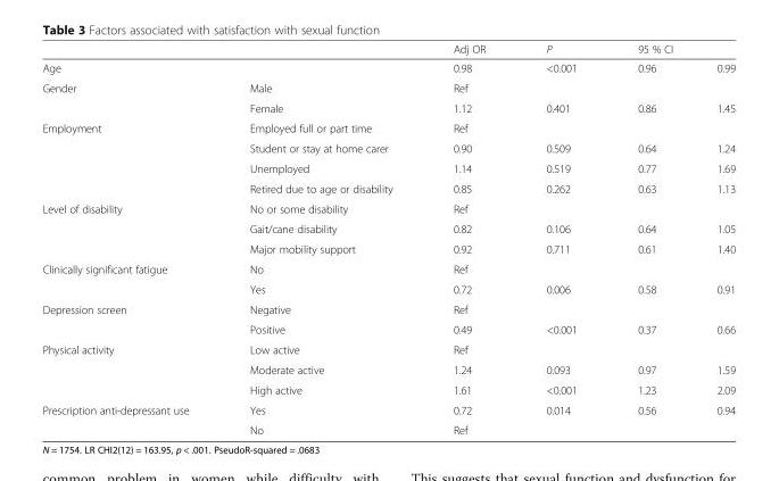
<table><thead><tr><td rowspan="2">Age</td><td rowspan="2"></td><td rowspan="2">Adj OR 0.98</td><td rowspan="2">P &lt;0.001</td><td colspan="2">95 % CI</td></tr><tr><td>0.96</td><td>0.99</td></tr></thead><tbody><tr><td rowspan="2">Gender</td><td>Male</td><td>Ref</td><td></td><td></td><td></td></tr><tr><td>Female</td><td>1.12</td><td>0.401</td><td>0.86</td><td>1.45</td></tr><tr><td rowspan="4">Employment</td><td>Employed full or part time</td><td>Ref</td><td></td><td></td><td></td></tr><tr><td>Student or stay at home carer</td><td>0.90</td><td>0.509</td><td>0.64</td><td>1.24</td></tr><tr><td>Unemployed</td><td>1.14</td><td>0.519</td><td>0.77</td><td>1.69</td></tr><tr><td>Retired due to age or disability</td><td>0.85</td><td>0.262</td><td>0.63</td><td>1.13</td></tr><tr><td rowspan="3">Level of disability</td><td>No or some disability</td><td>Ref</td><td></td><td></td><td></td></tr><tr><td>Gait/cane disability</td><td>0.82</td><td>0.106</td><td>0.64</td><td>1.05</td></tr><tr><td>Major mobility support</td><td>0.92</td><td>0.711</td><td>0.61</td><td>1.40</td></tr><tr><td rowspan="2">Clinically significant fatigue</td><td>No</td><td>Ref</td><td></td><td></td><td></td></tr><tr><td>Yes</td><td>0.72</td><td>0.006</td><td>0.58</td><td>0.91</td></tr><tr><td rowspan="2">Depression screen</td><td>Negative</td><td>Ref</td><td></td><td></td><td></td></tr><tr><td>Positive</td><td>0.49</td><td>&lt;0.001</td><td>0.37</td><td>0.66</td></tr><tr><td rowspan="3">Physical activity</td><td>Low active</td><td>Ref</td><td></td><td></td><td></td></tr><tr><td>Moderate active</td><td>1.24</td><td>0.093</td><td>0.97</td><td>1.59</td></tr><tr><td>High active</td><td>1.61</td><td>&lt;0.001</td><td>1.23</td><td>2.09</td></tr><tr><td rowspan="2">Prescription anti-depressant use</td><td>Yes</td><td>0.72</td><td>0.014</td><td>0.56</td><td>0.94</td></tr><tr><td>No</td><td>Ref</td><td></td><td></td><td></td></tr></tbody></table>